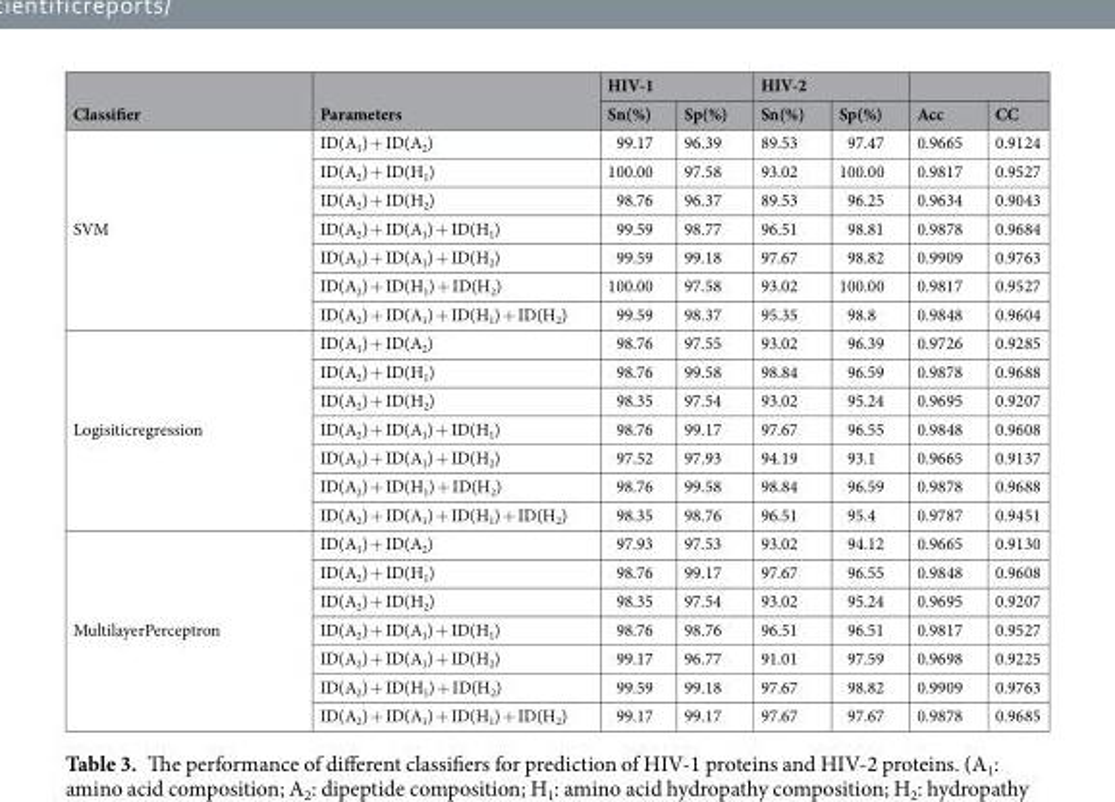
<table><thead><tr><td rowspan="2">Classifier</td><td rowspan="2">Parameters</td><td colspan="2">HIV-1</td><td colspan="2">HIV-2</td><td rowspan="2">Acc</td><td rowspan="2">CC</td></tr><tr><td>Sn(%)</td><td>Sp(%)</td><td>Sn(%)</td><td>Sp(%)</td></tr></thead><tbody><tr><td rowspan="7">SVM</td><td>ID(A<sub>1</sub>) + ID(A<sub>2</sub>)</td><td>99.17</td><td>96.39</td><td>89.53</td><td>97.47</td><td>0.9665</td><td>0.9124</td></tr><tr><td>ID(A<sub>2</sub>) + ID(H<sub>1</sub>)</td><td>100.00</td><td>97.58</td><td>93.02</td><td>100.00</td><td>0.9817</td><td>0.9527</td></tr><tr><td>ID(A<sub>2</sub>) + ID(H<sub>2</sub>)</td><td>98.76</td><td>96.37</td><td>89.53</td><td>96.25</td><td>0.9634</td><td>0.9043</td></tr><tr><td>ID(A<sub>2</sub>) + ID(A<sub>1</sub>) + ID(H<sub>1</sub>)</td><td>99.59</td><td>98.77</td><td>96.51</td><td>98.81</td><td>0.9878</td><td>0.9684</td></tr><tr><td>ID(A<sub>2</sub>) + ID(A<sub>1</sub>) + ID(H<sub>2</sub>)</td><td>99.59</td><td>99.18</td><td>97.67</td><td>98.82</td><td>0.9909</td><td>0.9763</td></tr><tr><td>ID(A<sub>2</sub>) + ID(H<sub>1</sub>) + ID(H<sub>2</sub>)</td><td>100.00</td><td>97.58</td><td>93.02</td><td>100.00</td><td>0.9817</td><td>0.9527</td></tr><tr><td>ID(A<sub>2</sub>) + ID(A<sub>1</sub>) + ID(H<sub>1</sub>) + ID(H<sub>2</sub>)</td><td>99.59</td><td>98.37</td><td>95.35</td><td>98.8</td><td>0.9848</td><td>0.9604</td></tr><tr><td rowspan="7">Logisiticregression</td><td>ID(A<sub>1</sub>) + ID(A<sub>2</sub>)</td><td>98.76</td><td>97.55</td><td>93.02</td><td>96.39</td><td>0.9726</td><td>0.9285</td></tr><tr><td>ID(A<sub>2</sub>) + ID(H<sub>1</sub>)</td><td>98.76</td><td>99.58</td><td>98.84</td><td>96.59</td><td>0.9878</td><td>0.9688</td></tr><tr><td>ID(A<sub>2</sub>) + ID(H<sub>2</sub>)</td><td>98.35</td><td>97.54</td><td>93.02</td><td>95.24</td><td>0.9695</td><td>0.9207</td></tr><tr><td>ID(A<sub>2</sub>) + ID(A<sub>1</sub>) + ID(H<sub>1</sub>)</td><td>98.76</td><td>99.17</td><td>97.67</td><td>96.55</td><td>0.9848</td><td>0.9608</td></tr><tr><td>ID(A<sub>2</sub>) + ID(A<sub>1</sub>) + ID(H<sub>2</sub>)</td><td>97.52</td><td>97.93</td><td>94.19</td><td>93.1</td><td>0.9665</td><td>0.9137</td></tr><tr><td>ID(A<sub>2</sub>) + ID(H<sub>1</sub>) + ID(H<sub>2</sub>)</td><td>98.76</td><td>99.58</td><td>98.84</td><td>96.59</td><td>0.9878</td><td>0.9688</td></tr><tr><td>ID(A<sub>2</sub>) + ID(A<sub>1</sub>) + ID(H<sub>1</sub>) + ID(H<sub>2</sub>)</td><td>98.35</td><td>98.76</td><td>96.51</td><td>95.4</td><td>0.9787</td><td>0.9451</td></tr><tr><td rowspan="7">MultilayerPerceptron</td><td>ID(A<sub>1</sub>) + ID(A<sub>2</sub>)</td><td>97.93</td><td>97.53</td><td>93.02</td><td>94.12</td><td>0.9665</td><td>0.9130</td></tr><tr><td>ID(A<sub>2</sub>) + ID(H<sub>1</sub>)</td><td>98.76</td><td>99.17</td><td>97.67</td><td>96.55</td><td>0.9848</td><td>0.9608</td></tr><tr><td>ID(A<sub>2</sub>) + ID(H<sub>2</sub>)</td><td>98.35</td><td>97.54</td><td>93.02</td><td>95.24</td><td>0.9695</td><td>0.9207</td></tr><tr><td>ID(A<sub>2</sub>) + ID(A<sub>1</sub>) + ID(H<sub>1</sub>)</td><td>98.76</td><td>98.76</td><td>96.51</td><td>96.51</td><td>0.9817</td><td>0.9527</td></tr><tr><td>ID(A<sub>2</sub>) + ID(A<sub>1</sub>) + ID(H<sub>2</sub>)</td><td>99.17</td><td>96.77</td><td>91.01</td><td>97.59</td><td>0.9698</td><td>0.9225</td></tr><tr><td>ID(A<sub>2</sub>) + ID(H<sub>1</sub>) + ID(H<sub>2</sub>)</td><td>99.59</td><td>99.18</td><td>97.67</td><td>98.82</td><td>0.9909</td><td>0.9763</td></tr><tr><td>ID(A<sub>2</sub>) + ID(A<sub>1</sub>) + ID(H<sub>1</sub>) + ID(H<sub>2</sub>)</td><td>99.17</td><td>99.17</td><td>97.67</td><td>97.67</td><td>0.9878</td><td>0.9685</td></tr></tbody></table>